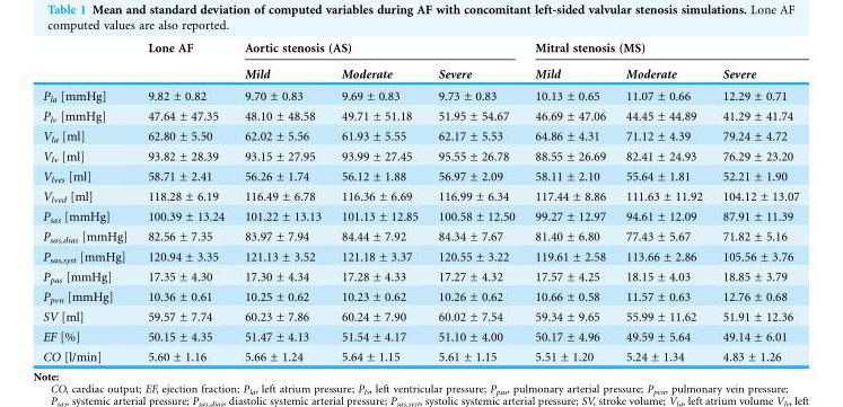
<table><thead><tr><td rowspan="2"></td><td rowspan="2">Lone AF</td><td colspan="3">Aortic stenosis (AS)</td><td colspan="3">Mitral stenosis (MS)</td></tr><tr><td>Mild</td><td>Moderate</td><td>Severe</td><td>Mild</td><td>Moderate</td><td>Severe</td></tr></thead><tbody><tr><td>P<sub>la</sub> [mmHg]</td><td>9.82 ± 0.82</td><td>9.70 ± 0.83</td><td>9.69 ± 0.83</td><td>9.73 ± 0.83</td><td>10.13 ± 0.65</td><td>11.07 ± 0.66</td><td>12.29 ± 0.71</td></tr><tr><td>P<sub>lv</sub> [mmHg]</td><td>47.64 ± 47.35</td><td>48.10 ± 48.58</td><td>49.71 ± 51.18</td><td>51.95 ± 54.67</td><td>46.69 ± 47.06</td><td>44.45 ± 44.89</td><td>41.29 ± 41.74</td></tr><tr><td>V<sub>la</sub> [ml]</td><td>62.80 ± 5.50</td><td>62.02 ± 5.56</td><td>61.93 ± 5.55</td><td>62.17 ± 5.53</td><td>64.86 ± 4.31</td><td>71.12 ± 4.39</td><td>79.24 ± 4.72</td></tr><tr><td>V<sub>lv</sub> [ml]</td><td>93.82 ± 28.39</td><td>93.15 ± 27.95</td><td>93.99 ± 27.45</td><td>95.55 ± 26.78</td><td>88.55 ± 26.69</td><td>82.41 ± 24.93</td><td>76.29 ± 23.20</td></tr><tr><td>V<sub>lves</sub> [ml]</td><td>58.71 ± 2.41</td><td>56.26 ± 1.74</td><td>56.12 ± 1.88</td><td>56.97 ± 2.09</td><td>58.11 ± 2.10</td><td>55.64 ± 1.81</td><td>52.21 ± 1.90</td></tr><tr><td>V<sub>lved</sub> [ml]</td><td>118.28 ± 6.19</td><td>116.49 ± 6.78</td><td>116.36 ± 6.69</td><td>116.99 ± 6.34</td><td>117.44 ± 8.86</td><td>111.63 ± 11.92</td><td>104.12 ± 13.07</td></tr><tr><td>P<sub>sas</sub> [mmHg]</td><td>100.39 ± 13.24</td><td>101.22 ± 13.13</td><td>101.13 ± 12.85</td><td>100.58 ± 12.50</td><td>99.27 ± 12.97</td><td>94.61 ± 12.09</td><td>87.91 ± 11.39</td></tr><tr><td>P<sub>sas,dias</sub> [mmHg]</td><td>82.56 ± 7.35</td><td>83.97 ± 7.94</td><td>84.44 ± 7.92</td><td>84.34 ± 7.67</td><td>81.40 ± 6.80</td><td>77.43 ± 5.67</td><td>71.82 ± 5.16</td></tr><tr><td>P<sub>sas,syst</sub> [mmHg]</td><td>120.94 ± 3.35</td><td>121.13 ± 3.52</td><td>121.18 ± 3.37</td><td>120.55 ± 3.22</td><td>119.61 ± 2.58</td><td>113.66 ± 2.86</td><td>105.56 ± 3.76</td></tr><tr><td>P<sub>pas</sub> [mmHg]</td><td>17.35 ± 4.30</td><td>17.30 ± 4.34</td><td>17.28 ± 4.33</td><td>17.27 ± 4.32</td><td>17.57 ± 4.25</td><td>18.15 ± 4.03</td><td>18.85 ± 3.79</td></tr><tr><td>P<sub>pvn</sub> [mmHg]</td><td>10.36 ± 0.61</td><td>10.25 ± 0.62</td><td>10.23 ± 0.62</td><td>10.26 ± 0.62</td><td>10.66 ± 0.58</td><td>11.57 ± 0.63</td><td>12.76 ± 0.68</td></tr><tr><td>SV [ml]</td><td>59.57 ± 7.74</td><td>60.23 ± 7.86</td><td>60.24 ± 7.90</td><td>60.02 ± 7.54</td><td>59.34 ± 9.65</td><td>55.99 ± 11.62</td><td>51.91 ± 12.36</td></tr><tr><td>EF [%]</td><td>50.15 ± 4.35</td><td>51.47 ± 4.13</td><td>51.54 ± 4.17</td><td>51.10 ± 4.00</td><td>50.17 ± 4.96</td><td>49.59 ± 5.64</td><td>49.14 ± 6.01</td></tr><tr><td>CO [l/min]</td><td>5.60 ± 1.16</td><td>5.66 ± 1.24</td><td>5.64 ± 1.15</td><td>5.61 ± 1.15</td><td>5.51 ± 1.20</td><td>5.24 ± 1.34</td><td>4.83 ± 1.26</td></tr></tbody></table>